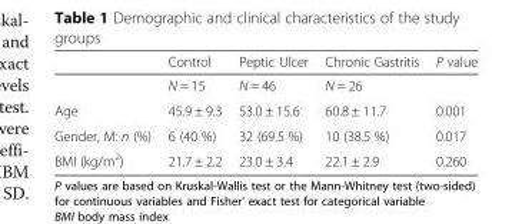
<table><thead><tr><td></td><td>Control</td><td>Peptic Ulcer</td><td>Chronic Gastritis</td><td>P value</td></tr></thead><tbody><tr><td></td><td>N = 15</td><td>N = 46</td><td>N = 26</td><td></td></tr><tr><td>Age</td><td>45.9 ± 9.3</td><td>53.0 ± 15.6</td><td>60.8 ± 11.7</td><td>0.001</td></tr><tr><td>Gender, M: n (%)</td><td>6 (40 %)</td><td>32 (69.5 %)</td><td>10 (38.5 %)</td><td>0.017</td></tr><tr><td>BMI (kg/m<sup>2</sup>)</td><td>21.7 ± 2.2</td><td>23.0 ± 3.4</td><td>22.1 ± 2.9</td><td>0.260</td></tr></tbody></table>